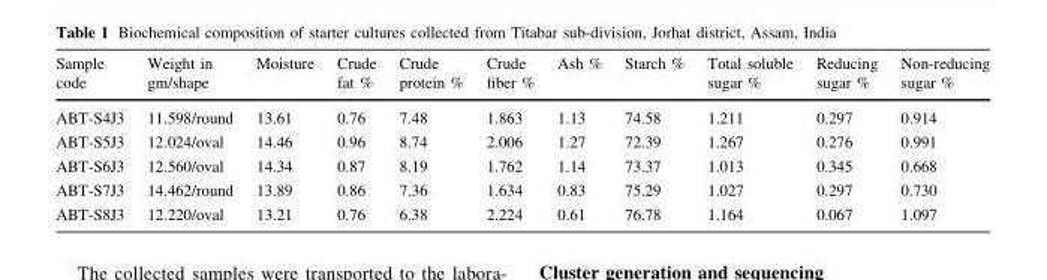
<table><thead><tr><td>Sample code</td><td>Weight in gm/shape</td><td>Moisture</td><td>Crude fat %</td><td>Crude protein %</td><td>Crude fiber %</td><td>Ash %</td><td>Starch %</td><td>Total soluble sugar %</td><td>Reducing sugar %</td><td>Non-reducing sugar %</td></tr></thead><tbody><tr><td>ABT-S4J3</td><td>11.598/round</td><td>13.61</td><td>0.76</td><td>7.48</td><td>1.863</td><td>1.13</td><td>74.58</td><td>1.211</td><td>0.297</td><td>0.914</td></tr><tr><td>ABT-S5J3</td><td>12.024/oval</td><td>14.46</td><td>0.96</td><td>8.74</td><td>2.006</td><td>1.27</td><td>72.39</td><td>1.267</td><td>0.276</td><td>0.991</td></tr><tr><td>ABT-S6J3</td><td>12.560/oval</td><td>14.34</td><td>0.87</td><td>8.19</td><td>1.762</td><td>1.14</td><td>73.37</td><td>1.013</td><td>0.345</td><td>0.668</td></tr><tr><td>ABT-S7J3</td><td>14.462/round</td><td>13.89</td><td>0.86</td><td>7.36</td><td>1.634</td><td>0.83</td><td>75.29</td><td>1.027</td><td>0.297</td><td>0.730</td></tr><tr><td>ABT-S8J3</td><td>12.220/oval</td><td>13.21</td><td>0.76</td><td>6.38</td><td>2.224</td><td>0.61</td><td>76.78</td><td>1.164</td><td>0.067</td><td>1.097</td></tr></tbody></table>